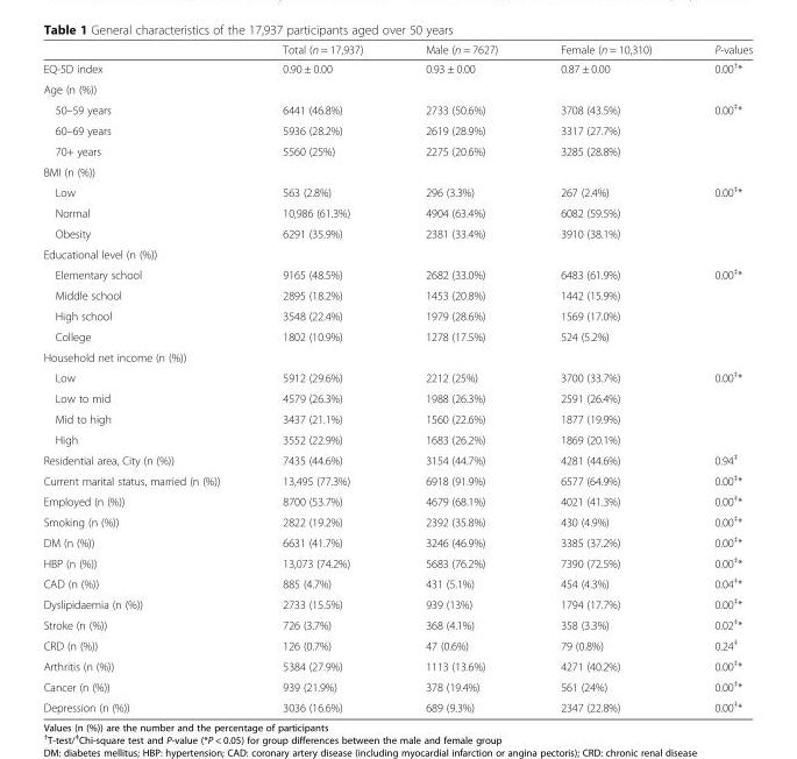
<table><thead><tr><td></td><td>Total (n = 17,937)</td><td>Male (n = 7627)</td><td>Female (n = 10,310)</td><td>P-values</td></tr></thead><tbody><tr><td>EQ-5D index</td><td>0.90 ± 0.00</td><td>0.93 ± 0.00</td><td>0.87 ± 0.00</td><td>0.00<sup>†</sup>*</td></tr><tr><td colspan="5">Age (n (%))</td></tr><tr><td>50–59 years</td><td>6441 (46.8%)</td><td>2733 (50.6%)</td><td>3708 (43.5%)</td><td rowspan="3">0.00<sup>‡</sup>*</td></tr><tr><td>60–69 years</td><td>5936 (28.2%)</td><td>2619 (28.9%)</td><td>3317 (27.7%)</td></tr><tr><td>70+ years</td><td>5560 (25%)</td><td>2275 (20.6%)</td><td>3285 (28.8%)</td></tr><tr><td colspan="5">BMI (n (%))</td></tr><tr><td>Low</td><td>563 (2.8%)</td><td>296 (3.3%)</td><td>267 (2.4%)</td><td rowspan="3">0.00<sup>‡</sup>*</td></tr><tr><td>Normal</td><td>10,986 (61.3%)</td><td>4904 (63.4%)</td><td>6082 (59.5%)</td></tr><tr><td>Obesity</td><td>6291 (35.9%)</td><td>2381 (33.4%)</td><td>3910 (38.1%)</td></tr><tr><td colspan="5">Educational level (n (%))</td></tr><tr><td>Elementary school</td><td>9165 (48.5%)</td><td>2682 (33.0%)</td><td>6483 (61.9%)</td><td rowspan="4">0.00<sup>‡</sup>*</td></tr><tr><td>Middle school</td><td>2895 (18.2%)</td><td>1453 (20.8%)</td><td>1442 (15.9%)</td></tr><tr><td>High school</td><td>3548 (22.4%)</td><td>1979 (28.6%)</td><td>1569 (17.0%)</td></tr><tr><td>College</td><td>1802 (10.9%)</td><td>1278 (17.5%)</td><td>524 (5.2%)</td></tr><tr><td colspan="5">Household net income (n (%))</td></tr><tr><td>Low</td><td>5912 (29.6%)</td><td>2212 (25%)</td><td>3700 (33.7%)</td><td rowspan="4">0.00<sup>‡</sup>*</td></tr><tr><td>Low to mid</td><td>4579 (26.3%)</td><td>1988 (26.3%)</td><td>2591 (26.4%)</td></tr><tr><td>Mid to high</td><td>3437 (21.1%)</td><td>1560 (22.6%)</td><td>1877 (19.9%)</td></tr><tr><td>High</td><td>3552 (22.9%)</td><td>1683 (26.2%)</td><td>1869 (20.1%)</td></tr><tr><td>Residential area, City (n (%))</td><td>7435 (44.6%)</td><td>3154 (44.7%)</td><td>4281 (44.6%)</td><td>0.94<sup>‡</sup></td></tr><tr><td>Current marital status, married (n (%))</td><td>13,495 (77.3%)</td><td>6918 (91.9%)</td><td>6577 (64.9%)</td><td>0.00<sup>‡</sup>*</td></tr><tr><td>Employed (n (%))</td><td>8700 (53.7%)</td><td>4679 (68.1%)</td><td>4021 (41.3%)</td><td>0.00<sup>‡</sup>*</td></tr><tr><td>Smoking (n (%))</td><td>2822 (19.2%)</td><td>2392 (35.8%)</td><td>430 (4.9%)</td><td>0.00<sup>‡</sup>*</td></tr><tr><td>DM (n (%))</td><td>6631 (41.7%)</td><td>3246 (46.9%)</td><td>3385 (37.2%)</td><td>0.00<sup>‡</sup>*</td></tr><tr><td>HBP (n (%))</td><td>13,073 (74.2%)</td><td>5683 (76.2%)</td><td>7390 (72.5%)</td><td>0.00<sup>‡</sup>*</td></tr><tr><td>CAD (n (%))</td><td>885 (4.7%)</td><td>431 (5.1%)</td><td>454 (4.3%)</td><td>0.04<sup>‡</sup>*</td></tr><tr><td>Dyslipidaemia (n (%))</td><td>2733 (15.5%)</td><td>939 (13%)</td><td>1794 (17.7%)</td><td>0.00<sup>‡</sup>*</td></tr><tr><td>Stroke (n (%))</td><td>726 (3.7%)</td><td>368 (4.1%)</td><td>358 (3.3%)</td><td>0.02<sup>‡</sup>*</td></tr><tr><td>CRD (n (%))</td><td>126 (0.7%)</td><td>47 (0.6%)</td><td>79 (0.8%)</td><td>0.24<sup>‡</sup></td></tr><tr><td>Arthritis (n (%))</td><td>5384 (27.9%)</td><td>1113 (13.6%)</td><td>4271 (40.2%)</td><td>0.00<sup>‡</sup>*</td></tr><tr><td>Cancer (n (%))</td><td>939 (21.9%)</td><td>378 (19.4%)</td><td>561 (24%)</td><td>0.00<sup>‡</sup>*</td></tr><tr><td>Depression (n (%))</td><td>3036 (16.6%)</td><td>689 (9.3%)</td><td>2347 (22.8%)</td><td>0.00<sup>‡</sup>*</td></tr></tbody></table>